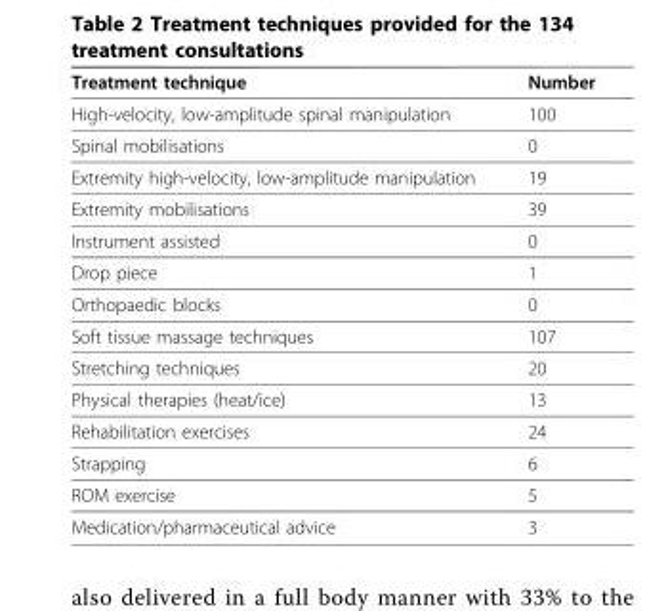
<table><thead><tr><td>Treatment technique</td><td>Number</td></tr></thead><tbody><tr><td>High-velocity, low-amplitude spinal manipulation</td><td>100</td></tr><tr><td>Spinal mobilisations</td><td>0</td></tr><tr><td>Extremity high-velocity, low-amplitude manipulation</td><td>19</td></tr><tr><td>Extremity mobilisations</td><td>39</td></tr><tr><td>Instrument assisted</td><td>0</td></tr><tr><td>Drop piece</td><td>1</td></tr><tr><td>Orthopaedic blocks</td><td>0</td></tr><tr><td>Soft tissue massage techniques</td><td>107</td></tr><tr><td>Stretching techniques</td><td>20</td></tr><tr><td>Physical therapies (heat/ice)</td><td>13</td></tr><tr><td>Rehabilitation exercises</td><td>24</td></tr><tr><td>Strapping</td><td>6</td></tr><tr><td>ROM exercise</td><td>5</td></tr><tr><td>Medication/pharmaceutical advice</td><td>3</td></tr></tbody></table>